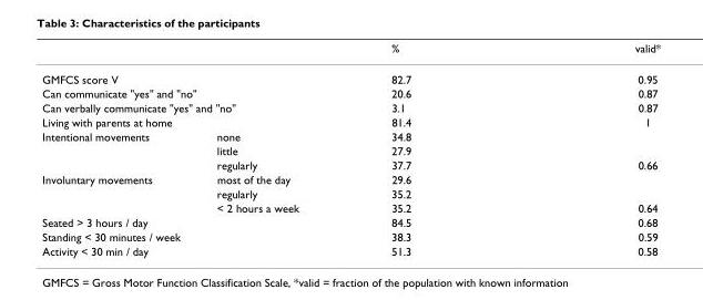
<table><thead><tr><td></td><td></td><td>%</td><td>valid*</td></tr></thead><tbody><tr><td colspan="2">GMFCS score V</td><td>82.7</td><td>0.95</td></tr><tr><td colspan="2">Can communicate &quot;yes&quot; and &quot;no&quot;</td><td>20.6</td><td>0.87</td></tr><tr><td colspan="2">Can verbally communicate &quot;yes&quot; and &quot;no&quot;</td><td>3.1</td><td>0.87</td></tr><tr><td colspan="2">Living with parents at home</td><td>81.4</td><td>1</td></tr><tr><td rowspan="3">Intentional movements</td><td>none</td><td>34.8</td><td></td></tr><tr><td>little</td><td>27.9</td><td></td></tr><tr><td>regularly</td><td>37.7</td><td>0.66</td></tr><tr><td rowspan="3">Involuntary movements</td><td>most of the day</td><td>29.6</td><td></td></tr><tr><td>regularly</td><td>35.2</td><td></td></tr><tr><td>&lt; 2 hours a week</td><td>35.2</td><td>0.64</td></tr><tr><td colspan="2">Seated &gt; 3 hours / day</td><td>84.5</td><td>0.68</td></tr><tr><td colspan="2">Standing &lt; 30 minutes / week</td><td>38.3</td><td>0.59</td></tr><tr><td colspan="2">Activity &lt; 30 min / day</td><td>51.3</td><td>0.58</td></tr></tbody></table>